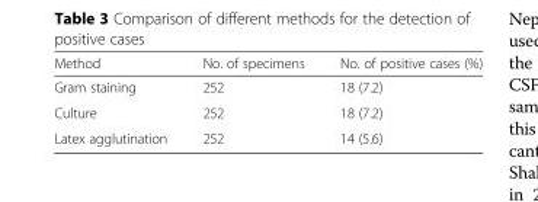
<table><thead><tr><td>Method</td><td>No. of specimens</td><td>No. of positive cases (%)</td></tr></thead><tbody><tr><td>Gram staining</td><td>252</td><td>18 (7.2)</td></tr><tr><td>Culture</td><td>252</td><td>18 (7.2)</td></tr><tr><td>Latex agglutination</td><td>252</td><td>14 (5.6)</td></tr></tbody></table>